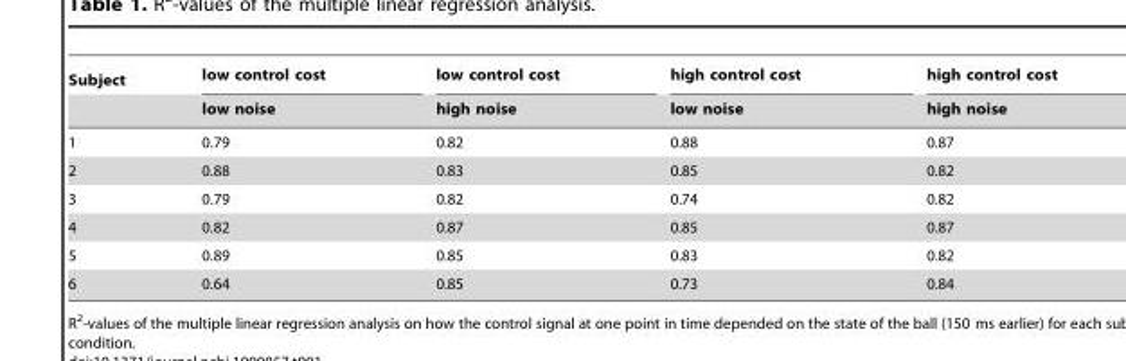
<table><thead><tr><td rowspan="2">Subject</td><td rowspan="2">low control cost low noise</td><td rowspan="2">low control cost high noise</td><td rowspan="2">high control cost low noise</td><td rowspan="2">high control cost high noise</td></tr><tr></tr></thead><tbody><tr><td>1</td><td>0.79</td><td>0.82</td><td>0.88</td><td>0.87</td></tr><tr><td>2</td><td>0.88</td><td>0.83</td><td>0.85</td><td>0.82</td></tr><tr><td>3</td><td>0.79</td><td>0.82</td><td>0.74</td><td>0.82</td></tr><tr><td>4</td><td>0.82</td><td>0.87</td><td>0.85</td><td>0.87</td></tr><tr><td>5</td><td>0.89</td><td>0.85</td><td>0.83</td><td>0.82</td></tr><tr><td>6</td><td>0.64</td><td>0.85</td><td>0.73</td><td>0.84</td></tr></tbody></table>